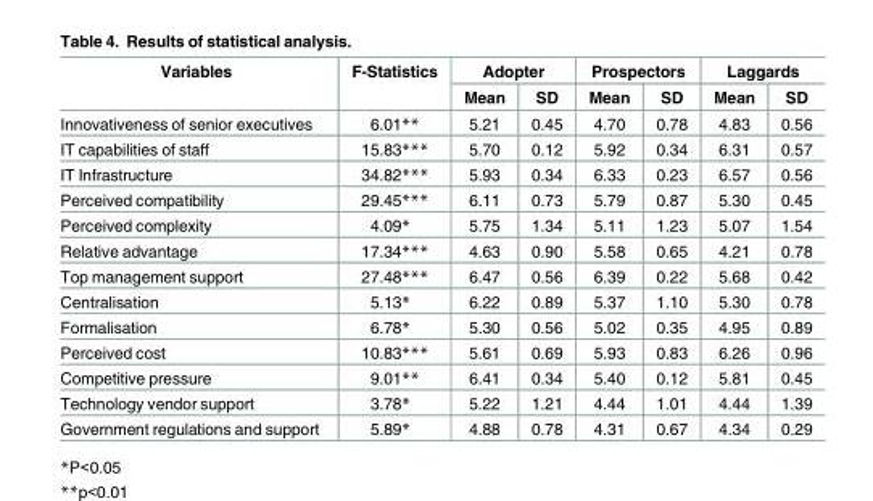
<table><thead><tr><td rowspan="2">Variables</td><td rowspan="2">F-Statistics</td><td colspan="2">Adopter</td><td colspan="2">Prospectors</td><td colspan="2">Laggards</td></tr><tr><td>Mean</td><td>SD</td><td>Mean</td><td>SD</td><td>Mean</td><td>SD</td></tr></thead><tbody><tr><td>Innovativeness of senior executives</td><td>6.01**</td><td>5.21</td><td>0.45</td><td>4.70</td><td>0.78</td><td>4.83</td><td>0.56</td></tr><tr><td>IT capabilities of staff</td><td>15.83***</td><td>5.70</td><td>0.12</td><td>5.92</td><td>0.34</td><td>6.31</td><td>0.57</td></tr><tr><td>IT Infrastructure</td><td>34.82***</td><td>5.93</td><td>0.34</td><td>6.33</td><td>0.23</td><td>6.57</td><td>0.56</td></tr><tr><td>Perceived compatibility</td><td>29.45***</td><td>6.11</td><td>0.73</td><td>5.79</td><td>0.87</td><td>5.30</td><td>0.45</td></tr><tr><td>Perceived complexity</td><td>4.09*</td><td>5.75</td><td>1.34</td><td>5.11</td><td>1.23</td><td>5.07</td><td>1.54</td></tr><tr><td>Relative advantage</td><td>17.34***</td><td>4.63</td><td>0.90</td><td>5.58</td><td>0.65</td><td>4.21</td><td>0.78</td></tr><tr><td>Top management support</td><td>27.48***</td><td>6.47</td><td>0.56</td><td>6.39</td><td>0.22</td><td>5.68</td><td>0.42</td></tr><tr><td>Centralisation</td><td>5.13*</td><td>6.22</td><td>0.89</td><td>5.37</td><td>1.10</td><td>5.30</td><td>0.78</td></tr><tr><td>Formalisation</td><td>6.78*</td><td>5.30</td><td>0.56</td><td>5.02</td><td>0.35</td><td>4.95</td><td>0.89</td></tr><tr><td>Perceived cost</td><td>10.83***</td><td>5.61</td><td>0.69</td><td>5.93</td><td>0.83</td><td>6.26</td><td>0.96</td></tr><tr><td>Competitive pressure</td><td>9.01**</td><td>6.41</td><td>0.34</td><td>5.40</td><td>0.12</td><td>5.81</td><td>0.45</td></tr><tr><td>Technology vendor support</td><td>3.78*</td><td>5.22</td><td>1.21</td><td>4.44</td><td>1.01</td><td>4.44</td><td>1.39</td></tr><tr><td>Government regulations and support</td><td>5.89*</td><td>4.88</td><td>0.78</td><td>4.31</td><td>0.67</td><td>4.34</td><td>0.29</td></tr></tbody></table>